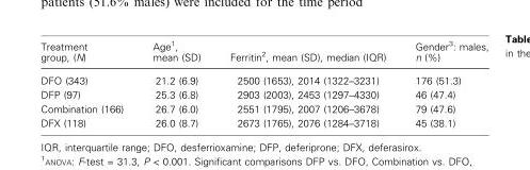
<table><thead><tr><td>Treatment group, (N)</td><td>Age<sup>1</sup>, mean (SD)</td><td>Ferritin<sup>2</sup>, mean (SD), median (IQR)</td><td>Gender<sup>3</sup>: males, n (%)</td></tr></thead><tbody><tr><td>DFO (343)</td><td>21.2 (6.9)</td><td>2500 (1653), 2014 (1322–3231)</td><td>176 (51.3)</td></tr><tr><td>DFP (97)</td><td>25.3 (6.8)</td><td>2903 (2003), 2453 (1297–4330)</td><td>46 (47.4)</td></tr><tr><td>Combination (166)</td><td>26.7 (6.0)</td><td>2551 (1795), 2007 (1206–3678)</td><td>79 (47.6)</td></tr><tr><td>DFX (118)</td><td>26.0 (8.7)</td><td>2673 (1765), 2076 (1284–3718)</td><td>45 (38.1)</td></tr></tbody></table>